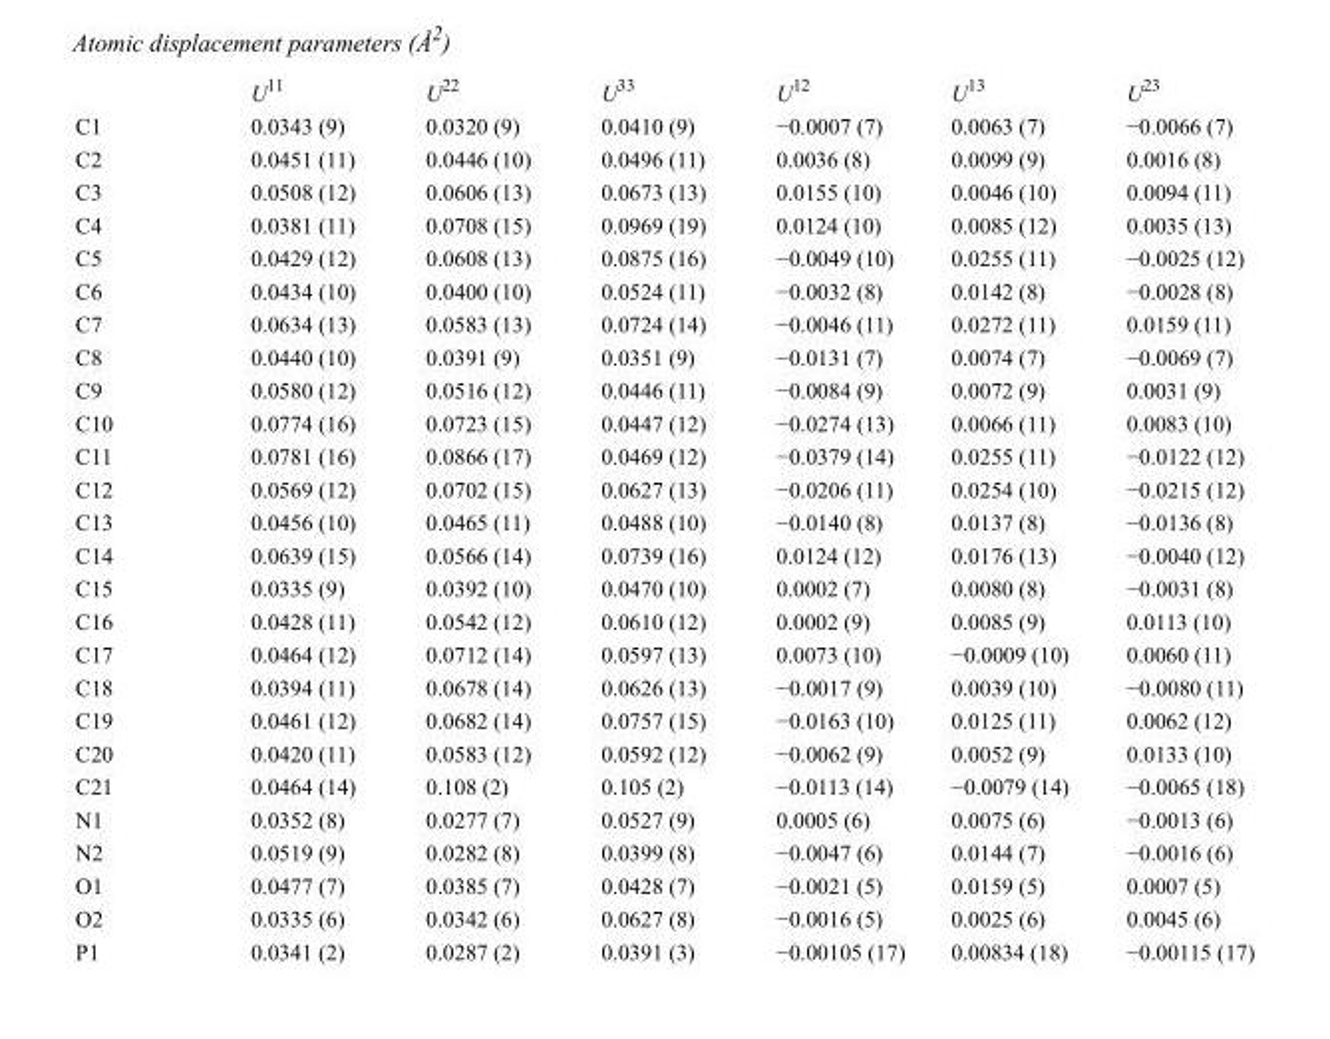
<table><thead><tr><td></td><td>U<sup>11</sup></td><td>U<sup>22</sup></td><td>U<sup>33</sup></td><td>U<sup>12</sup></td><td>U<sup>13</sup></td><td>U<sup>23</sup></td></tr></thead><tbody><tr><td>C1</td><td>0.0343 (9)</td><td>0.0320 (9)</td><td>0.0410 (9)</td><td>−0.0007 (7)</td><td>0.0063 (7)</td><td>−0.0066 (7)</td></tr><tr><td>C2</td><td>0.0451 (11)</td><td>0.0446 (10)</td><td>0.0496 (11)</td><td>0.0036 (8)</td><td>0.0099 (9)</td><td>0.0016 (8)</td></tr><tr><td>C3</td><td>0.0508 (12)</td><td>0.0606 (13)</td><td>0.0673 (13)</td><td>0.0155 (10)</td><td>0.0046 (10)</td><td>0.0094 (11)</td></tr><tr><td>C4</td><td>0.0381 (11)</td><td>0.0708 (15)</td><td>0.0969 (19)</td><td>0.0124 (10)</td><td>0.0085 (12)</td><td>0.0035 (13)</td></tr><tr><td>C5</td><td>0.0429 (12)</td><td>0.0608 (13)</td><td>0.0875 (16)</td><td>−0.0049 (10)</td><td>0.0255 (11)</td><td>−0.0025 (12)</td></tr><tr><td>C6</td><td>0.0434 (10)</td><td>0.0400 (10)</td><td>0.0524 (11)</td><td>−0.0032 (8)</td><td>0.0142 (8)</td><td>−0.0028 (8)</td></tr><tr><td>C7</td><td>0.0634 (13)</td><td>0.0583 (13)</td><td>0.0724 (14)</td><td>−0.0046 (11)</td><td>0.0272 (11)</td><td>0.0159 (11)</td></tr><tr><td>C8</td><td>0.0440 (10)</td><td>0.0391 (9)</td><td>0.0351 (9)</td><td>−0.0131 (7)</td><td>0.0074 (7)</td><td>−0.0069 (7)</td></tr><tr><td>C9</td><td>0.0580 (12)</td><td>0.0516 (12)</td><td>0.0446 (11)</td><td>−0.0084 (9)</td><td>0.0072 (9)</td><td>0.0031 (9)</td></tr><tr><td>C10</td><td>0.0774 (16)</td><td>0.0723 (15)</td><td>0.0447 (12)</td><td>−0.0274 (13)</td><td>0.0066 (11)</td><td>0.0083 (10)</td></tr><tr><td>C11</td><td>0.0781 (16)</td><td>0.0866 (17)</td><td>0.0469 (12)</td><td>−0.0379 (14)</td><td>0.0255 (11)</td><td>−0.0122 (12)</td></tr><tr><td>C12</td><td>0.0569 (12)</td><td>0.0702 (15)</td><td>0.0627 (13)</td><td>−0.0206 (11)</td><td>0.0254 (10)</td><td>−0.0215 (12)</td></tr><tr><td>C13</td><td>0.0456 (10)</td><td>0.0465 (11)</td><td>0.0488 (10)</td><td>−0.0140 (8)</td><td>0.0137 (8)</td><td>−0.0136 (8)</td></tr><tr><td>C14</td><td>0.0639 (15)</td><td>0.0566 (14)</td><td>0.0739 (16)</td><td>0.0124 (12)</td><td>0.0176 (13)</td><td>−0.0040 (12)</td></tr><tr><td>C15</td><td>0.0335 (9)</td><td>0.0392 (10)</td><td>0.0470 (10)</td><td>0.0002 (7)</td><td>0.0080 (8)</td><td>−0.0031 (8)</td></tr><tr><td>C16</td><td>0.0428 (11)</td><td>0.0542 (12)</td><td>0.0610 (12)</td><td>0.0002 (9)</td><td>0.0085 (9)</td><td>0.0113 (10)</td></tr><tr><td>C17</td><td>0.0464 (12)</td><td>0.0712 (14)</td><td>0.0597 (13)</td><td>0.0073 (10)</td><td>−0.0009 (10)</td><td>0.0060 (11)</td></tr><tr><td>C18</td><td>0.0394 (11)</td><td>0.0678 (14)</td><td>0.0626 (13)</td><td>−0.0017 (9)</td><td>0.0039 (10)</td><td>−0.0080 (11)</td></tr><tr><td>C19</td><td>0.0461 (12)</td><td>0.0682 (14)</td><td>0.0757 (15)</td><td>−0.0163 (10)</td><td>0.0125 (11)</td><td>0.0062 (12)</td></tr><tr><td>C20</td><td>0.0420 (11)</td><td>0.0583 (12)</td><td>0.0592 (12)</td><td>−0.0062 (9)</td><td>0.0052 (9)</td><td>0.0133 (10)</td></tr><tr><td>C21</td><td>0.0464 (14)</td><td>0.108 (2)</td><td>0.105 (2)</td><td>−0.0113 (14)</td><td>−0.0079 (14)</td><td>−0.0065 (18)</td></tr><tr><td>N1</td><td>0.0352 (8)</td><td>0.0277 (7)</td><td>0.0527 (9)</td><td>0.0005 (6)</td><td>0.0075 (6)</td><td>−0.0013 (6)</td></tr><tr><td>N2</td><td>0.0519 (9)</td><td>0.0282 (8)</td><td>0.0399 (8)</td><td>−0.0047 (6)</td><td>0.0144 (7)</td><td>−0.0016 (6)</td></tr><tr><td>O1</td><td>0.0477 (7)</td><td>0.0385 (7)</td><td>0.0428 (7)</td><td>−0.0021 (5)</td><td>0.0159 (5)</td><td>0.0007 (5)</td></tr><tr><td>O2</td><td>0.0335 (6)</td><td>0.0342 (6)</td><td>0.0627 (8)</td><td>−0.0016 (5)</td><td>0.0025 (6)</td><td>0.0045 (6)</td></tr><tr><td>P1</td><td>0.0341 (2)</td><td>0.0287 (2)</td><td>0.0391 (3)</td><td>−0.00105 (17)</td><td>0.00834 (18)</td><td>−0.00115 (17)</td></tr></tbody></table>